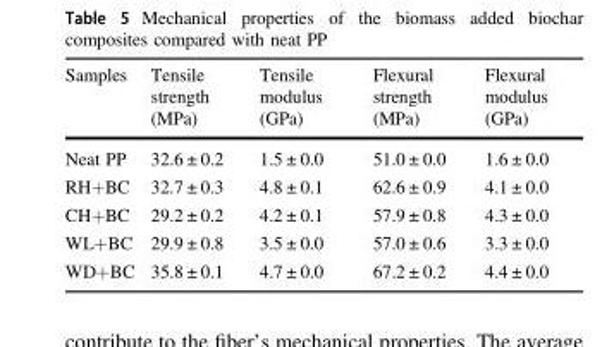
<table><thead><tr><td>Samples</td><td>Tensile strength (MPa)</td><td>Tensile modulus (GPa)</td><td>Flexural strength (MPa)</td><td>Flexural modulus (GPa)</td></tr></thead><tbody><tr><td>Neat PP</td><td>32.6 ± 0.2</td><td>1.5 ± 0.0</td><td>51.0 ± 0.0</td><td>1.6 ± 0.0</td></tr><tr><td>RH+BC</td><td>32.7 ± 0.3</td><td>4.8 ± 0.1</td><td>62.6 ± 0.9</td><td>4.1 ± 0.0</td></tr><tr><td>CH+BC</td><td>29.2 ± 0.2</td><td>4.2 ± 0.1</td><td>57.9 ± 0.8</td><td>4.3 ± 0.0</td></tr><tr><td>WL+BC</td><td>29.9 ± 0.8</td><td>3.5 ± 0.0</td><td>57.0 ± 0.6</td><td>3.3 ± 0.0</td></tr><tr><td>WD+BC</td><td>35.8 ± 0.1</td><td>4.7 ± 0.0</td><td>67.2 ± 0.2</td><td>4.4 ± 0.0</td></tr></tbody></table>